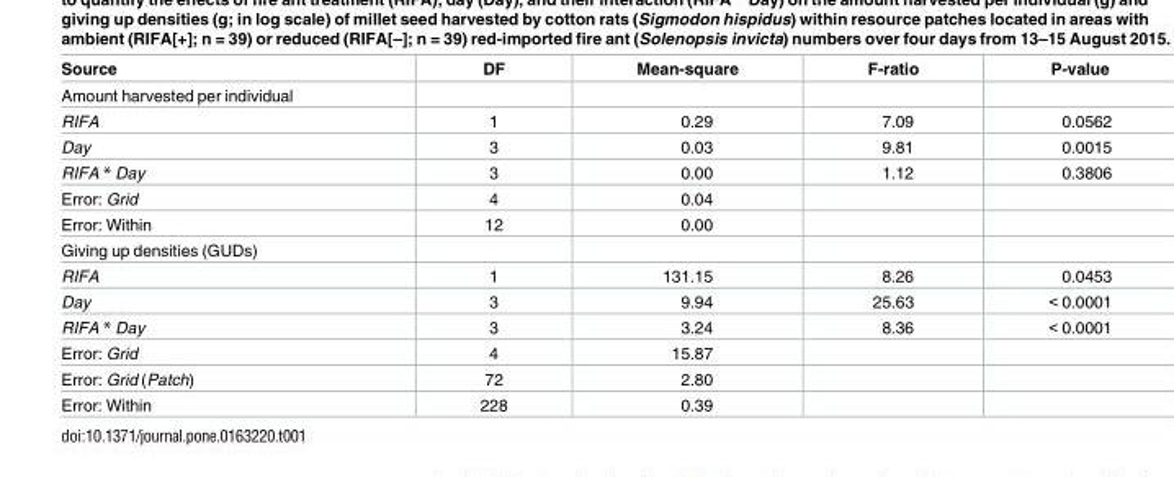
<table><thead><tr><td>Source</td><td>DF</td><td>Mean-square</td><td>F-ratio</td><td>P-value</td></tr></thead><tbody><tr><td colspan="5">Amount harvested per individual</td></tr><tr><td>RIFA</td><td>1</td><td>0.29</td><td>7.09</td><td>0.0562</td></tr><tr><td>Day</td><td>3</td><td>0.03</td><td>9.81</td><td>0.0015</td></tr><tr><td>RIFA * Day</td><td>3</td><td>0.00</td><td>1.12</td><td>0.3806</td></tr><tr><td>Error: Grid</td><td>4</td><td>0.04</td><td></td><td></td></tr><tr><td>Error: Within</td><td>12</td><td>0.00</td><td></td><td></td></tr><tr><td colspan="5">Giving up densities (GUDs)</td></tr><tr><td>RIFA</td><td>1</td><td>131.15</td><td>8.26</td><td>0.0453</td></tr><tr><td>Day</td><td>3</td><td>9.94</td><td>25.63</td><td>&lt; 0.0001</td></tr><tr><td>RIFA * Day</td><td>3</td><td>3.24</td><td>8.36</td><td>&lt; 0.0001</td></tr><tr><td>Error: Grid</td><td>4</td><td>15.87</td><td></td><td></td></tr><tr><td>Error: Grid (Patch)</td><td>72</td><td>2.80</td><td></td><td></td></tr><tr><td>Error: Within</td><td>228</td><td>0.39</td><td></td><td></td></tr></tbody></table>